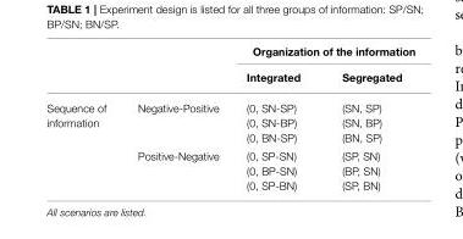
<table><thead><tr><td rowspan="2"></td><td rowspan="2"></td><td colspan="2">Organization of the information</td></tr><tr><td>Integrated</td><td>Segregated</td></tr></thead><tbody><tr><td rowspan="2">Sequence of information</td><td>Negative-Positive</td><td>(0, SN-SP) (0, SN-BP) (0, BN-SP)</td><td>(SN, SP) (SN, BP) (BN, SP)</td></tr><tr><td>Positive-Negative</td><td>(0, SP-SN) (0, BP-SN) (0, SP-BN)</td><td>(SP, SN) (BP, SN) (SP, BN)</td></tr></tbody></table>